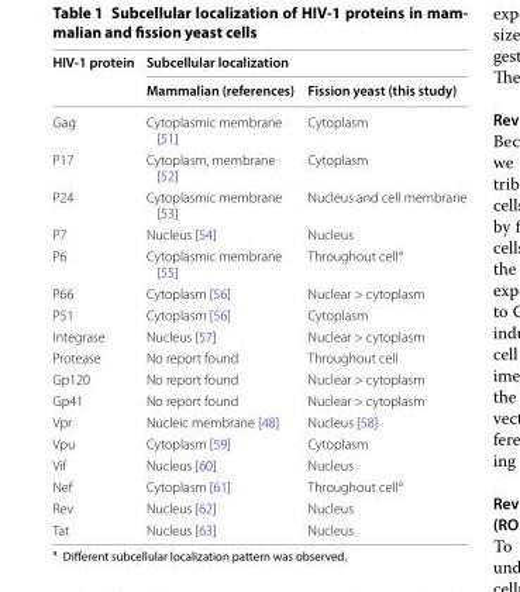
<table><thead><tr><td rowspan="2">HIV‑1 protein</td><td colspan="2">Subcellular localization</td></tr><tr><td>Mammalian (references)</td><td>Fission yeast (this study)</td></tr></thead><tbody><tr><td>Gag</td><td>Cytoplasmic membrane [51]</td><td>Cytoplasm</td></tr><tr><td>P17</td><td>Cytoplasm, membrane [52]</td><td>Cytoplasm</td></tr><tr><td>P24</td><td>Cytoplasmic membrane [53]</td><td>Nucleus and cell membrane</td></tr><tr><td>P7</td><td>Nucleus [54]</td><td>Nucleus</td></tr><tr><td>P6</td><td>Cytoplasmic membrane [55]</td><td>Throughout cell<sup>a</sup></td></tr><tr><td>P66</td><td>Cytoplasm [56]</td><td>Nuclear &gt; cytoplasm</td></tr><tr><td>P51</td><td>Cytoplasm [56]</td><td>Cytoplasm</td></tr><tr><td>Integrase</td><td>Nucleus [57]</td><td>Nuclear &gt; cytoplasm</td></tr><tr><td>Protease</td><td>No report found</td><td>Throughout cell</td></tr><tr><td>Gp120</td><td>No report found</td><td>Nuclear &gt; cytoplasm</td></tr><tr><td>Gp41</td><td>No report found</td><td>Nuclear &gt; cytoplasm</td></tr><tr><td>Vpr</td><td>Nucleic membrane [48]</td><td>Nucleus [58]</td></tr><tr><td>Vpu</td><td>Cytoplasm [59]</td><td>Cytoplasm</td></tr><tr><td>Vif</td><td>Nucleus [60]</td><td>Nucleus</td></tr><tr><td>Nef</td><td>Cytoplasm [61]</td><td>Throughout cell<sup>a</sup></td></tr><tr><td>Rev</td><td>Nucleus [62]</td><td>Nucleus</td></tr><tr><td>Tat</td><td>Nucleus [63]</td><td>Nucleus</td></tr></tbody></table>